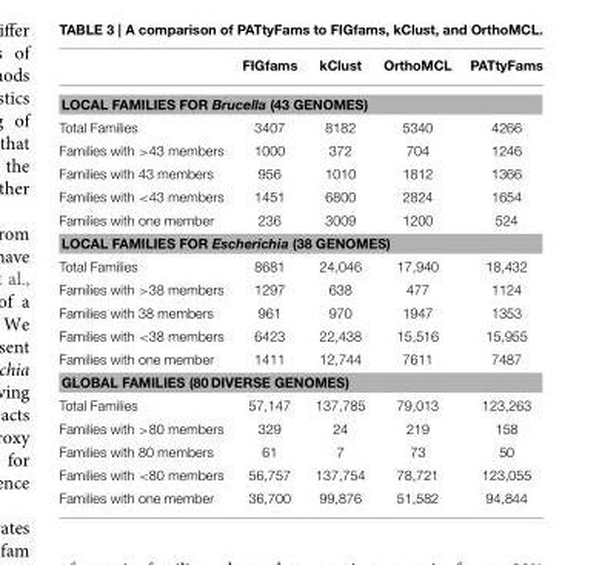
<table><thead><tr><td></td><td>FIGfams</td><td>kClust</td><td>OrthoMCL</td><td>PATtyFams</td></tr></thead><tbody><tr><td colspan="5">LOCAL FAMILIES FOR Brucella (43 GENOMES)</td></tr><tr><td>Total Families</td><td>3407</td><td>8182</td><td>5340</td><td>4266</td></tr><tr><td>Families with &gt;43 members</td><td>1000</td><td>372</td><td>704</td><td>1246</td></tr><tr><td>Families with 43 members</td><td>956</td><td>1010</td><td>1812</td><td>1366</td></tr><tr><td>Families with &lt;43 members</td><td>1451</td><td>6800</td><td>2824</td><td>1654</td></tr><tr><td>Families with one member</td><td>236</td><td>3009</td><td>1200</td><td>524</td></tr><tr><td colspan="5">LOCAL FAMILIES FOR Escherichia (38 GENOMES)</td></tr><tr><td>Total Families</td><td>8681</td><td>24,046</td><td>17,940</td><td>18,432</td></tr><tr><td>Families with &gt;38 members</td><td>1297</td><td>638</td><td>477</td><td>1124</td></tr><tr><td>Families with 38 members</td><td>961</td><td>970</td><td>1947</td><td>1353</td></tr><tr><td>Families with &lt;38 members</td><td>6423</td><td>22,438</td><td>15,516</td><td>15,955</td></tr><tr><td>Families with one member</td><td>1411</td><td>12,744</td><td>7611</td><td>7487</td></tr><tr><td colspan="5">GLOBAL FAMILIES (80 DIVERSE GENOMES)</td></tr><tr><td>Total Families</td><td>57,147</td><td>137,785</td><td>79,013</td><td>123,263</td></tr><tr><td>Families with &gt;80 members</td><td>329</td><td>24</td><td>219</td><td>158</td></tr><tr><td>Families with 80 members</td><td>61</td><td>7</td><td>73</td><td>50</td></tr><tr><td>Families with &lt;80 members</td><td>56,757</td><td>137,754</td><td>78,721</td><td>123,055</td></tr><tr><td>Families with one member</td><td>36,700</td><td>99,876</td><td>51,582</td><td>94,844</td></tr></tbody></table>